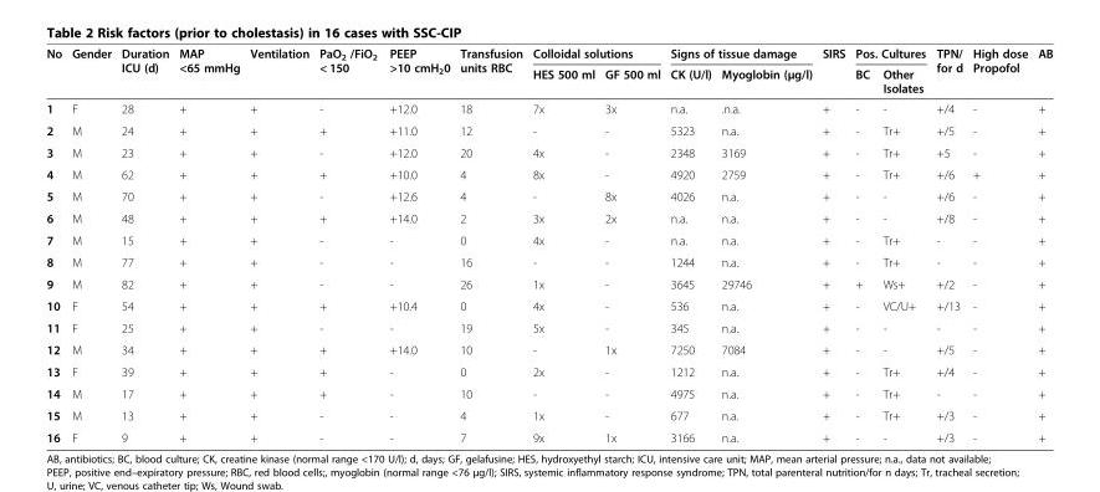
<table><thead><tr><td rowspan="2">No</td><td rowspan="2">Gender</td><td rowspan="2">Duration ICU (d)</td><td rowspan="2">MAP &lt;65 mmHg</td><td rowspan="2">Ventilation</td><td rowspan="2">PaO<sub>2</sub> /FiO<sub>2</sub> &lt; 150</td><td rowspan="2">PEEP &gt;10 cmH<sub>2</sub>0</td><td rowspan="2">Transfusion units RBC</td><td colspan="2">Colloidal solutions</td><td colspan="2">Signs of tissue damage</td><td rowspan="2">SIRS</td><td colspan="2">Pos. Cultures</td><td rowspan="2">TPN/ for d</td><td rowspan="2">High dose Propofol</td><td rowspan="2">AB</td></tr><tr><td>HES 500 ml</td><td>GF 500 ml</td><td>CK (U/l)</td><td>Myoglobin (μg/l)</td><td>BC</td><td>Other Isolates</td></tr></thead><tbody><tr><td>1</td><td>F</td><td>28</td><td>+</td><td>+</td><td>-</td><td>+12.0</td><td>18</td><td>7x</td><td>3x</td><td>n.a.</td><td>.n.a.</td><td>+</td><td>-</td><td>-</td><td>+/4</td><td>-</td><td>+</td></tr><tr><td>2</td><td>M</td><td>24</td><td>+</td><td>+</td><td>+</td><td>+11.0</td><td>12</td><td>-</td><td>-</td><td>5323</td><td>n.a.</td><td>+</td><td>-</td><td>Tr+</td><td>+/5</td><td>-</td><td>+</td></tr><tr><td>3</td><td>M</td><td>23</td><td>+</td><td>+</td><td>-</td><td>+12.0</td><td>20</td><td>4x</td><td>-</td><td>2348</td><td>3169</td><td>+</td><td>-</td><td>Tr+</td><td>+5</td><td>-</td><td>+</td></tr><tr><td>4</td><td>M</td><td>62</td><td>+</td><td>+</td><td>+</td><td>+10.0</td><td>4</td><td>8x</td><td>-</td><td>4920</td><td>2759</td><td>+</td><td>-</td><td>Tr+</td><td>+/6</td><td>+</td><td>+</td></tr><tr><td>5</td><td>M</td><td>70</td><td>+</td><td>+</td><td>-</td><td>+12.6</td><td>4</td><td>-</td><td>8x</td><td>4026</td><td>n.a.</td><td>+</td><td>-</td><td>-</td><td>+/6</td><td>-</td><td>+</td></tr><tr><td>6</td><td>M</td><td>48</td><td>+</td><td>+</td><td>+</td><td>+14.0</td><td>2</td><td>3x</td><td>2x</td><td>n.a.</td><td>n.a.</td><td>+</td><td>-</td><td>-</td><td>+/8</td><td>-</td><td>+</td></tr><tr><td>7</td><td>M</td><td>15</td><td>+</td><td>+</td><td>-</td><td>-</td><td>0</td><td>4x</td><td>-</td><td>n.a.</td><td>n.a.</td><td>+</td><td>-</td><td>Tr+</td><td>-</td><td>-</td><td>+</td></tr><tr><td>8</td><td>M</td><td>77</td><td>+</td><td>+</td><td>-</td><td>-</td><td>16</td><td>-</td><td>-</td><td>1244</td><td>n.a.</td><td>+</td><td>-</td><td>Tr+</td><td>-</td><td>-</td><td>+</td></tr><tr><td>9</td><td>M</td><td>82</td><td>+</td><td>+</td><td>-</td><td>-</td><td>26</td><td>1x</td><td>-</td><td>3645</td><td>29746</td><td>+</td><td>+</td><td>Ws+</td><td>+/2</td><td>-</td><td>+</td></tr><tr><td>10</td><td>F</td><td>54</td><td>+</td><td>+</td><td>+</td><td>+10.4</td><td>0</td><td>4x</td><td>-</td><td>536</td><td>n.a.</td><td>+</td><td>-</td><td>VC/U+</td><td>+/13</td><td>-</td><td>+</td></tr><tr><td>11</td><td>F</td><td>25</td><td>+</td><td>+</td><td>-</td><td>-</td><td>19</td><td>5x</td><td>-</td><td>345</td><td>n.a.</td><td>+</td><td>-</td><td>-</td><td>-</td><td>-</td><td>+</td></tr><tr><td>12</td><td>M</td><td>34</td><td>+</td><td>+</td><td>+</td><td>+14.0</td><td>10</td><td>-</td><td>1x</td><td>7250</td><td>7084</td><td>+</td><td>-</td><td>-</td><td>+/5</td><td>-</td><td>+</td></tr><tr><td>13</td><td>F</td><td>39</td><td>+</td><td>+</td><td>+</td><td>-</td><td>0</td><td>2x</td><td>-</td><td>1212</td><td>n.a.</td><td>+</td><td>-</td><td>Tr+</td><td>+/4</td><td>-</td><td>+</td></tr><tr><td>14</td><td>M</td><td>17</td><td>+</td><td>+</td><td>+</td><td>-</td><td>10</td><td>-</td><td>-</td><td>4975</td><td>n.a.</td><td>+</td><td>-</td><td>Tr+</td><td>-</td><td>-</td><td>+</td></tr><tr><td>15</td><td>M</td><td>13</td><td>+</td><td>+</td><td>-</td><td>-</td><td>4</td><td>1x</td><td>-</td><td>677</td><td>n.a.</td><td>+</td><td>-</td><td>Tr+</td><td>+/3</td><td>-</td><td>+</td></tr><tr><td>16</td><td>F</td><td>9</td><td>+</td><td>+</td><td>-</td><td>-</td><td>7</td><td>9x</td><td>1x</td><td>3166</td><td>n.a.</td><td>+</td><td>-</td><td>-</td><td>+/3</td><td>-</td><td>+</td></tr></tbody></table>